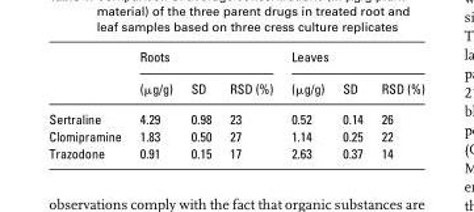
<table><thead><tr><td rowspan="2"></td><td colspan="3">Roots</td><td colspan="3">Leaves</td></tr><tr><td>(μg/g)</td><td>SD</td><td>RSD (%)</td><td>(μg/g)</td><td>SD</td><td>RSD (%)</td></tr></thead><tbody><tr><td>Sertraline</td><td>4.29</td><td>0.98</td><td>23</td><td>0.52</td><td>0.14</td><td>26</td></tr><tr><td>Clomipramine</td><td>1.83</td><td>0.50</td><td>27</td><td>1.14</td><td>0.25</td><td>22</td></tr><tr><td>Trazodone</td><td>0.91</td><td>0.15</td><td>17</td><td>2.63</td><td>0.37</td><td>14</td></tr></tbody></table>